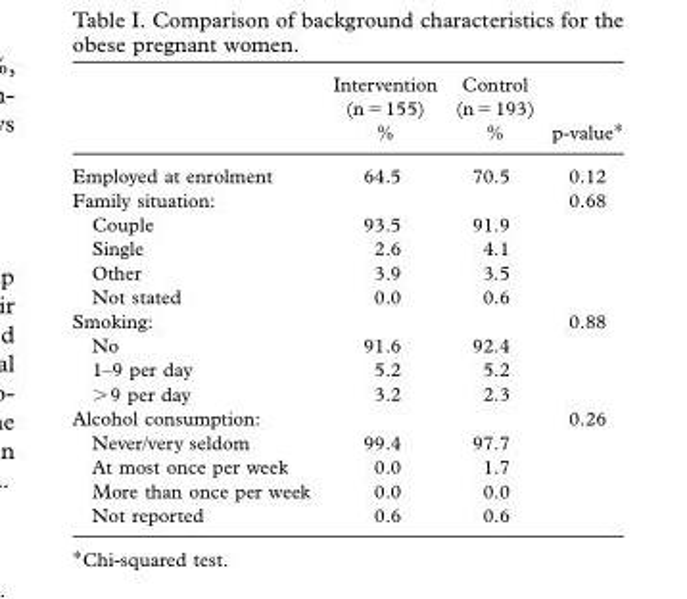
<table><thead><tr><td></td><td>Intervention (n = 155) %</td><td>Control (n = 193) %</td><td>p-value</td></tr></thead><tbody><tr><td>Employed at enrolment</td><td>64.5</td><td>70.5</td><td>0.12</td></tr><tr><td>Family situation:</td><td></td><td></td><td>0.68</td></tr><tr><td>Couple</td><td>93.5</td><td>91.9</td><td></td></tr><tr><td>Single</td><td>2.6</td><td>4.1</td><td></td></tr><tr><td>Other</td><td>3.9</td><td>3.5</td><td></td></tr><tr><td>Not stated</td><td>0.0</td><td>0.6</td><td></td></tr><tr><td>Smoking:</td><td></td><td></td><td>0.88</td></tr><tr><td>No</td><td>91.6</td><td>92.4</td><td></td></tr><tr><td>1 – 9 per day</td><td>5.2</td><td>5.2</td><td></td></tr><tr><td>&gt; 9 per day</td><td>3.2</td><td>2.3</td><td></td></tr><tr><td>Alcohol consumption:</td><td></td><td></td><td>0.26</td></tr><tr><td>Never/very seldom</td><td>99.4</td><td>97.7</td><td></td></tr><tr><td>At most once per week</td><td>0.0</td><td>1.7</td><td></td></tr><tr><td>More than once per week</td><td>0.0</td><td>0.0</td><td></td></tr><tr><td>Not reported</td><td>0.6</td><td>0.6</td><td></td></tr></tbody></table>